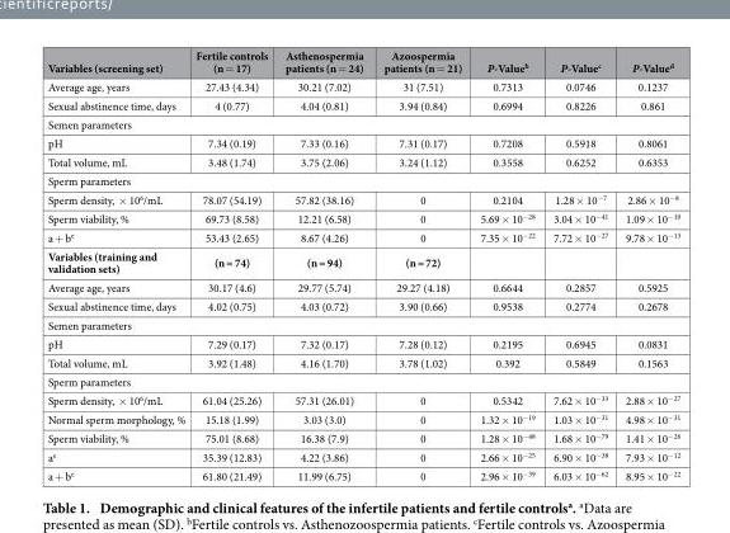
<table><thead><tr><td>Variables (screening set)</td><td>Fertile controls (n = 17)</td><td>Asthenospermia patients (n = 24)</td><td>Azoospermia patients (n = 21)</td><td>P-Value<sup>b</sup></td><td>P-Value<sup>c</sup></td><td>P-Value<sup>d</sup></td></tr></thead><tbody><tr><td>Average age, years</td><td>27.43 (4.34)</td><td>30.21 (7.02)</td><td>31 (7.51)</td><td>0.7313</td><td>0.0746</td><td>0.1237</td></tr><tr><td>Sexual abstinence time, days</td><td>4 (0.77)</td><td>4.04 (0.81)</td><td>3.94 (0.84)</td><td>0.6994</td><td>0.8226</td><td>0.861</td></tr><tr><td colspan="7">Semen parameters</td></tr><tr><td>pH</td><td>7.34 (0.19)</td><td>7.33 (0.16)</td><td>7.31 (0.17)</td><td>0.7208</td><td>0.5918</td><td>0.8061</td></tr><tr><td>Total volume, mL</td><td>3.48 (1.74)</td><td>3.75 (2.06)</td><td>3.24 (1.12)</td><td>0.3558</td><td>0.6252</td><td>0.6353</td></tr><tr><td colspan="7">Sperm parameters</td></tr><tr><td>Sperm density, × 10<sup>6</sup>/mL</td><td>78.07 (54.19)</td><td>57.82 (38.16)</td><td>0</td><td>0.2104</td><td>1.28 × 10<sup>−7</sup></td><td>2.86 × 10<sup>−8</sup></td></tr><tr><td>Sperm viability, %</td><td>69.73 (8.58)</td><td>12.21 (6.58)</td><td>0</td><td>5.69 × 10<sup>−28</sup></td><td>3.04 × 10<sup>−41</sup></td><td>1.09 × 10<sup>−10</sup></td></tr><tr><td>a + b<sup>e</sup></td><td>53.43 (2.65)</td><td>8.67 (4.26)</td><td>0</td><td>7.35 × 10<sup>−22</sup></td><td>7.72 × 10<sup>−27</sup></td><td>9.78 × 10<sup>−13</sup></td></tr><tr><td>Variables (training and validation sets)</td><td>(n = 74)</td><td>(n = 94)</td><td>(n = 72)</td><td></td><td></td><td></td></tr><tr><td>Average age, years</td><td>30.17 (4.6)</td><td>29.77 (5.74)</td><td>29.27 (4.18)</td><td>0.6644</td><td>0.2857</td><td>0.5925</td></tr><tr><td>Sexual abstinence time, days</td><td>4.02 (0.75)</td><td>4.03 (0.72)</td><td>3.90 (0.66)</td><td>0.9538</td><td>0.2774</td><td>0.2678</td></tr><tr><td colspan="7">Semen parameters</td></tr><tr><td>pH</td><td>7.29 (0.17)</td><td>7.32 (0.17)</td><td>7.28 (0.12)</td><td>0.2195</td><td>0.6945</td><td>0.0831</td></tr><tr><td>Total volume, mL</td><td>3.92 (1.48)</td><td>4.16 (1.70)</td><td>3.78 (1.02)</td><td>0.392</td><td>0.5849</td><td>0.1563</td></tr><tr><td colspan="7">Sperm parameters</td></tr><tr><td>Sperm density, × 10<sup>6</sup>/mL</td><td>61.04 (25.26)</td><td>57.31 (26.01)</td><td>0</td><td>0.5342</td><td>7.62 × 10<sup>−33</sup></td><td>2.88 × 10<sup>−27</sup></td></tr><tr><td>Normal sperm morphology, %</td><td>15.18 (1.99)</td><td>3.03 (3.0)</td><td>0</td><td>1.32 × 10<sup>−19</sup></td><td>1.03 × 10<sup>−31</sup></td><td>4.98 × 10<sup>−31</sup></td></tr><tr><td>Sperm viability, %</td><td>75.01 (8.68)</td><td>16.38 (7.9)</td><td>0</td><td>1.28 × 10<sup>−48</sup></td><td>1.68 × 10<sup>−79</sup></td><td>1.41 × 10<sup>−26</sup></td></tr><tr><td>a<sup>e</sup></td><td>35.39 (12.83)</td><td>4.22 (3.86)</td><td>0</td><td>2.66 × 10<sup>−25</sup></td><td>6.90 × 10<sup>−38</sup></td><td>7.93 × 10<sup>−12</sup></td></tr><tr><td>a + b<sup>e</sup></td><td>61.80 (21.49)</td><td>11.99 (6.75)</td><td>0</td><td>2.96 × 10<sup>−39</sup></td><td>6.03 × 10<sup>−62</sup></td><td>8.95 × 10<sup>−22</sup></td></tr></tbody></table>